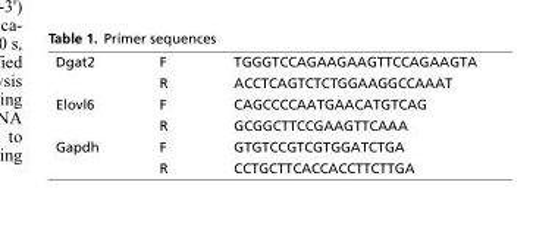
<table><tbody><tr><td rowspan="2">Dgat2</td><td>F</td><td>TGGGTCCAGAAGAAGTTCCAGAAGTA</td></tr><tr><td>R</td><td>ACCTCAGTCTCTGGAAGGCCAAAT</td></tr><tr><td rowspan="2">Elovl6</td><td>F</td><td>CAGCCCCAATGAACATGTCAG</td></tr><tr><td>R</td><td>GCGGCTTCCGAAGTTCAAA</td></tr><tr><td rowspan="2">Gapdh</td><td>F</td><td>GTGTCCGTCGTGGATCTGA</td></tr><tr><td>R</td><td>CCTGCTTCACCACCTTCTTGA</td></tr></tbody></table>